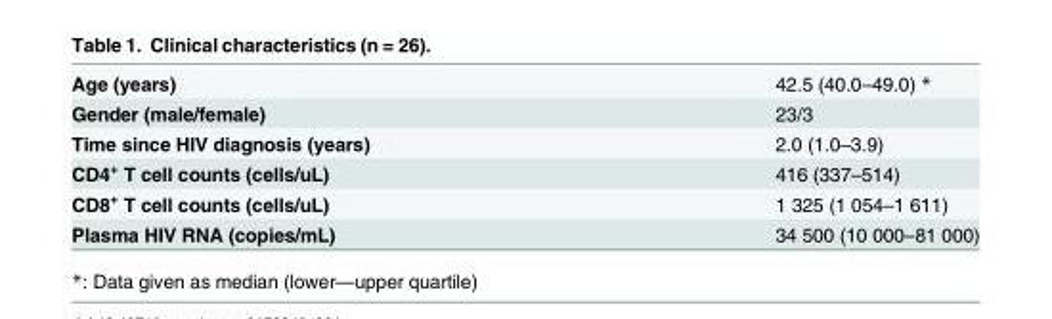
<table><tbody><tr><td>Age (years)</td><td>42.5 (40.0–49.0) *</td></tr><tr><td>Gender (male/female)</td><td>23/3</td></tr><tr><td>Time since HIV diagnosis (years)</td><td>2.0 (1.0–3.9)</td></tr><tr><td>CD4<sup>+</sup> T cell counts (cells/uL)</td><td>416 (337–514)</td></tr><tr><td>CD8<sup>+</sup> T cell counts (cells/uL)</td><td>1 325 (1 054–1 611)</td></tr><tr><td>Plasma HIV RNA (copies/mL)</td><td>34 500 (10 000–81 000)</td></tr></tbody></table>